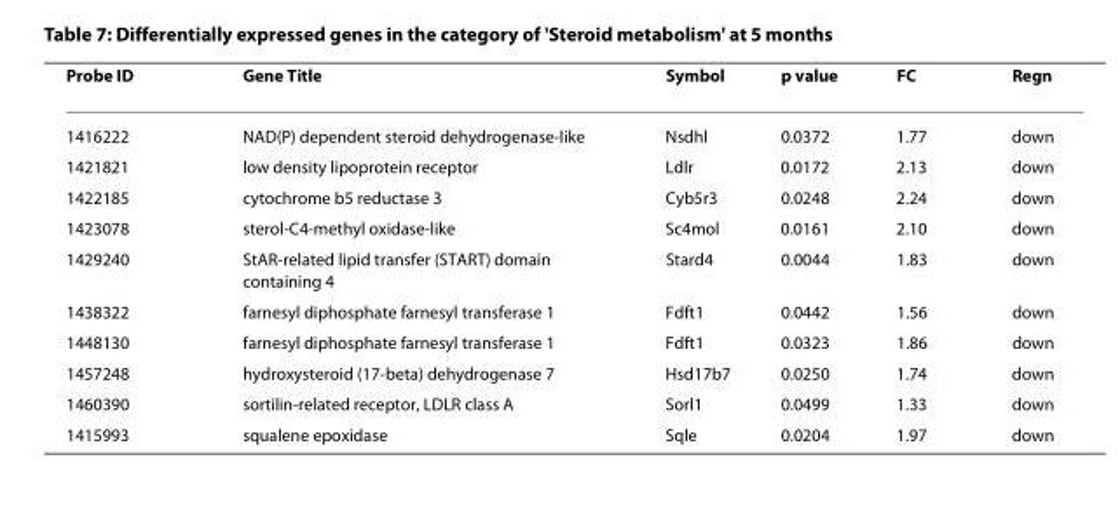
<table><thead><tr><td>Probe ID</td><td>Gene Title</td><td>Symbol</td><td>p value</td><td>FC</td><td>Regn</td></tr></thead><tbody><tr><td>1416222</td><td>NAD(P) dependent steroid dehydrogenase-like</td><td>Nsdhl</td><td>0.0372</td><td>1.77</td><td>down</td></tr><tr><td>1421821</td><td>low density lipoprotein receptor</td><td>Ldlr</td><td>0.0172</td><td>2.13</td><td>down</td></tr><tr><td>1422185</td><td>cytochrome b5 reductase 3</td><td>Cyb5r3</td><td>0.0248</td><td>2.24</td><td>down</td></tr><tr><td>1423078</td><td>sterol-C4-methyl oxidase-like</td><td>Sc4mol</td><td>0.0161</td><td>2.10</td><td>down</td></tr><tr><td>1429240</td><td>StAR-related lipid transfer (START) domain containing 4</td><td>Stard4</td><td>0.0044</td><td>1.83</td><td>down</td></tr><tr><td>1438322</td><td>farnesyl diphosphate farnesyl transferase 1</td><td>Fdft1</td><td>0.0442</td><td>1.56</td><td>down</td></tr><tr><td>1448130</td><td>farnesyl diphosphate farnesyl transferase 1</td><td>Fdft1</td><td>0.0323</td><td>1.86</td><td>down</td></tr><tr><td>1457248</td><td>hydroxysteroid (17-beta) dehydrogenase 7</td><td>Hsd17b7</td><td>0.0250</td><td>1.74</td><td>down</td></tr><tr><td>1460390</td><td>sortilin-related receptor, LDLR class A</td><td>Sorl1</td><td>0.0499</td><td>1.33</td><td>down</td></tr><tr><td>1415993</td><td>squalene epoxidase</td><td>Sqle</td><td>0.0204</td><td>1.97</td><td>down</td></tr></tbody></table>